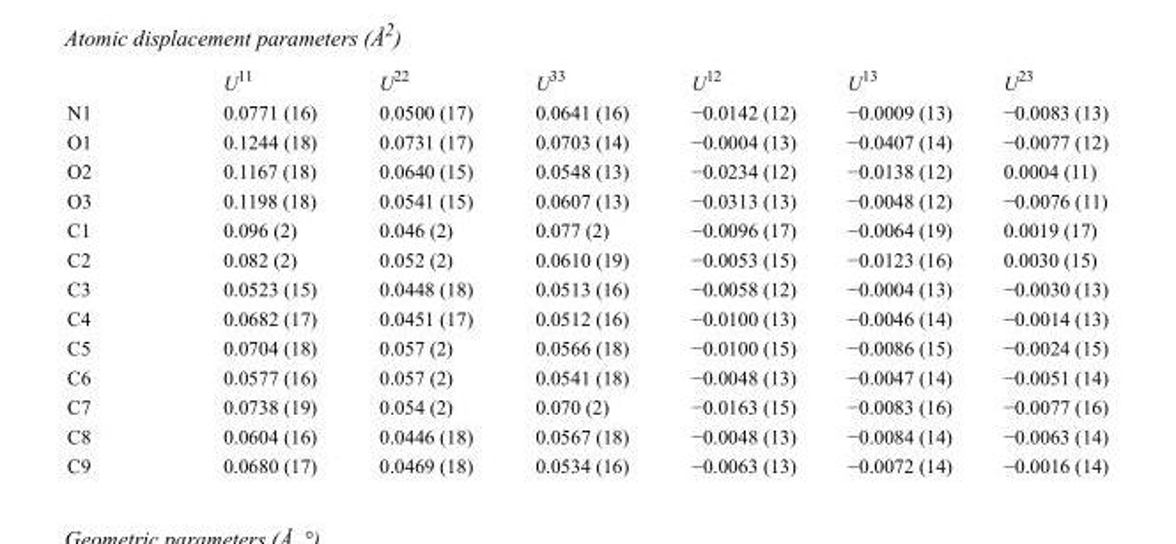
<table><thead><tr><td></td><td>U<sup>11</sup></td><td>U<sup>22</sup></td><td>U<sup>33</sup></td><td>U<sup>12</sup></td><td>U<sup>13</sup></td><td>U<sup>23</sup></td></tr></thead><tbody><tr><td>N1</td><td>0.0771 (16)</td><td>0.0500 (17)</td><td>0.0641 (16)</td><td>−0.0142 (12)</td><td>−0.0009 (13)</td><td>−0.0083 (13)</td></tr><tr><td>O1</td><td>0.1244 (18)</td><td>0.0731 (17)</td><td>0.0703 (14)</td><td>−0.0004 (13)</td><td>−0.0407 (14)</td><td>−0.0077 (12)</td></tr><tr><td>O2</td><td>0.1167 (18)</td><td>0.0640 (15)</td><td>0.0548 (13)</td><td>−0.0234 (12)</td><td>−0.0138 (12)</td><td>0.0004 (11)</td></tr><tr><td>O3</td><td>0.1198 (18)</td><td>0.0541 (15)</td><td>0.0607 (13)</td><td>−0.0313 (13)</td><td>−0.0048 (12)</td><td>−0.0076 (11)</td></tr><tr><td>C1</td><td>0.096 (2)</td><td>0.046 (2)</td><td>0.077 (2)</td><td>−0.0096 (17)</td><td>−0.0064 (19)</td><td>0.0019 (17)</td></tr><tr><td>C2</td><td>0.082 (2)</td><td>0.052 (2)</td><td>0.0610 (19)</td><td>−0.0053 (15)</td><td>−0.0123 (16)</td><td>0.0030 (15)</td></tr><tr><td>C3</td><td>0.0523 (15)</td><td>0.0448 (18)</td><td>0.0513 (16)</td><td>−0.0058 (12)</td><td>−0.0004 (13)</td><td>−0.0030 (13)</td></tr><tr><td>C4</td><td>0.0682 (17)</td><td>0.0451 (17)</td><td>0.0512 (16)</td><td>−0.0100 (13)</td><td>−0.0046 (14)</td><td>−0.0014 (13)</td></tr><tr><td>C5</td><td>0.0704 (18)</td><td>0.057 (2)</td><td>0.0566 (18)</td><td>−0.0100 (15)</td><td>−0.0086 (15)</td><td>−0.0024 (15)</td></tr><tr><td>C6</td><td>0.0577 (16)</td><td>0.057 (2)</td><td>0.0541 (18)</td><td>−0.0048 (13)</td><td>−0.0047 (14)</td><td>−0.0051 (14)</td></tr><tr><td>C7</td><td>0.0738 (19)</td><td>0.054 (2)</td><td>0.070 (2)</td><td>−0.0163 (15)</td><td>−0.0083 (16)</td><td>−0.0077 (16)</td></tr><tr><td>C8</td><td>0.0604 (16)</td><td>0.0446 (18)</td><td>0.0567 (18)</td><td>−0.0048 (13)</td><td>−0.0084 (14)</td><td>−0.0063 (14)</td></tr><tr><td>C9</td><td>0.0680 (17)</td><td>0.0469 (18)</td><td>0.0534 (16)</td><td>−0.0063 (13)</td><td>−0.0072 (14)</td><td>−0.0016 (14)</td></tr></tbody></table>